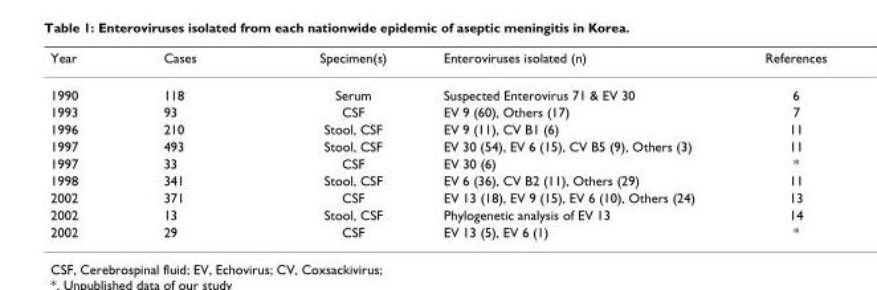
<table><thead><tr><td>Year</td><td>Cases</td><td>Specimen(s)</td><td>Enteroviruses isolated (n)</td><td>References</td></tr></thead><tbody><tr><td>1990</td><td>118</td><td>Serum</td><td>Suspected Enterovirus 71 &amp; EV 30</td><td>6</td></tr><tr><td>1993</td><td>93</td><td>CSF</td><td>EV 9 (60), Others (17)</td><td>7</td></tr><tr><td>1996</td><td>210</td><td>Stool, CSF</td><td>EV 9 (11), CV B1 (6)</td><td>11</td></tr><tr><td>1997</td><td>493</td><td>Stool, CSF</td><td>EV 30 (54), EV 6 (15), CV B5 (9), Others (3)</td><td>11</td></tr><tr><td>1997</td><td>33</td><td>CSF</td><td>EV 30 (6)</td><td>*</td></tr><tr><td>1998</td><td>341</td><td>Stool, CSF</td><td>EV 6 (36), CV B2 (11), Others (29)</td><td>11</td></tr><tr><td>2002</td><td>371</td><td>CSF</td><td>EV 13 (18), EV 9 (15), EV 6 (10), Others (24)</td><td>13</td></tr><tr><td>2002</td><td>13</td><td>Stool, CSF</td><td>Phylogenetic analysis of EV 13</td><td>14</td></tr><tr><td>2002</td><td>29</td><td>CSF</td><td>EV 13 (5), EV 6 (1)</td><td>*</td></tr></tbody></table>